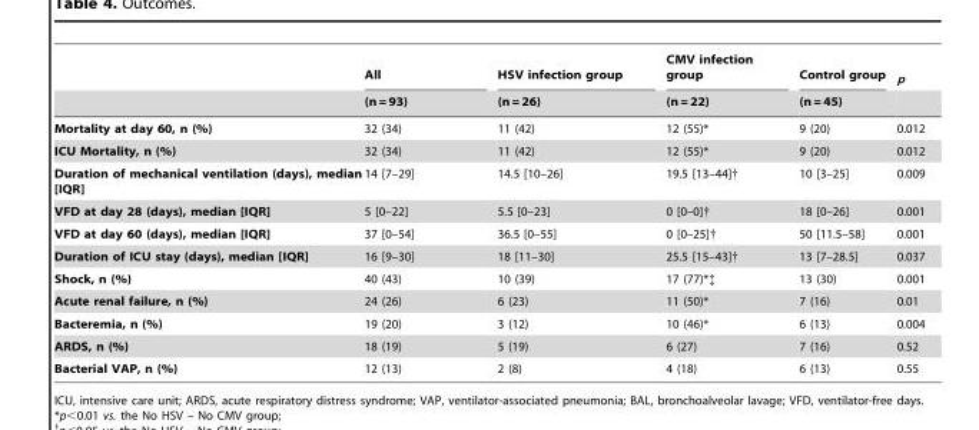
<table><thead><tr><td rowspan="2"></td><td rowspan="2">All (n = 93)</td><td rowspan="2">HSV infection group (n = 26)</td><td rowspan="2">CMV infection group (n = 22)</td><td rowspan="2">Control group (n = 45)</td><td rowspan="2">p</td></tr><tr></tr></thead><tbody><tr><td>Mortality at day 60, n (%)</td><td>32 (34)</td><td>11 (42)</td><td>12 (55)*</td><td>9 (20)</td><td>0.012</td></tr><tr><td>ICU Mortality, n (%)</td><td>32 (34)</td><td>11 (42)</td><td>12 (55)*</td><td>9 (20)</td><td>0.012</td></tr><tr><td>Duration of mechanical ventilation (days), median [IQR]</td><td>14 [7–29]</td><td>14.5 [10–26]</td><td>19.5 [13–44]{</td><td>10 [3–25]</td><td>0.009</td></tr><tr><td>VFD at day 28 (days), median [IQR]</td><td>5 [0–22]</td><td>5.5 [0–23]</td><td>0 [0–0]†</td><td>18 [0–26]</td><td>0.001</td></tr><tr><td>VFD at day 60 (days), median [IQR]</td><td>37 [0–54]</td><td>36.5 [0–55]</td><td>0 [0–25]†</td><td>50 [11.5–58]</td><td>0.001</td></tr><tr><td>Duration of ICU stay (days), median [IQR]</td><td>16 [9–30]</td><td>18 [11–30]</td><td>25.5 [15–43]{</td><td>13 [7–28.5]</td><td>0.037</td></tr><tr><td>Shock, n (%)</td><td>40 (43)</td><td>10 (39)</td><td>17 (77)*‡</td><td>13 (30)</td><td>0.001</td></tr><tr><td>Acute renal failure, n (%)</td><td>24 (26)</td><td>6 (23)</td><td>11 (50)*</td><td>7 (16)</td><td>0.01</td></tr><tr><td>Bacteremia, n (%)</td><td>19 (20)</td><td>3 (12)</td><td>10 (46)*</td><td>6 (13)</td><td>0.004</td></tr><tr><td>ARDS, n (%)</td><td>18 (19)</td><td>5 (19)</td><td>6 (27)</td><td>7 (16)</td><td>0.52</td></tr><tr><td>Bacterial VAP, n (%)</td><td>12 (13)</td><td>2 (8)</td><td>4 (18)</td><td>6 (13)</td><td>0.55</td></tr></tbody></table>